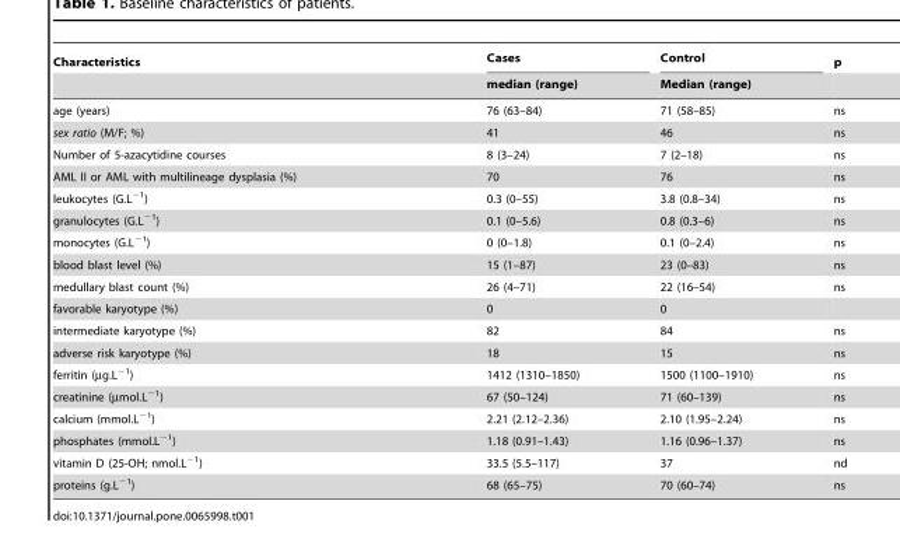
<table><thead><tr><td rowspan="2">Characteristics</td><td rowspan="2">Cases median (range)</td><td rowspan="2">Control Median (range)</td><td rowspan="2">p</td></tr><tr></tr></thead><tbody><tr><td>age (years)</td><td>76 (63–84)</td><td>71 (58–85)</td><td>ns</td></tr><tr><td>sex ratio (M/F; %)</td><td>41</td><td>46</td><td>ns</td></tr><tr><td>Number of 5-azacytidine courses</td><td>8 (3–24)</td><td>7 (2–18)</td><td>ns</td></tr><tr><td>AML II or AML with multilineage dysplasia (%)</td><td>70</td><td>76</td><td>ns</td></tr><tr><td>leukocytes (G.L<sup>−1</sup>)</td><td>0.3 (0–55)</td><td>3.8 (0.8–34)</td><td>ns</td></tr><tr><td>granulocytes (G.L<sup>−1</sup>)</td><td>0.1 (0–5.6)</td><td>0.8 (0.3–6)</td><td>ns</td></tr><tr><td>monocytes (G.L<sup>−1</sup>)</td><td>0 (0–1.8)</td><td>0.1 (0–2.4)</td><td>ns</td></tr><tr><td>blood blast level (%)</td><td>15 (1–87)</td><td>23 (0–83)</td><td>ns</td></tr><tr><td>medullary blast count (%)</td><td>26 (4–71)</td><td>22 (16–54)</td><td>ns</td></tr><tr><td>favorable karyotype (%)</td><td>0</td><td>0</td><td></td></tr><tr><td>intermediate karyotype (%)</td><td>82</td><td>84</td><td>ns</td></tr><tr><td>adverse risk karyotype (%)</td><td>18</td><td>15</td><td>ns</td></tr><tr><td>ferritin (µg.L<sup>−1</sup>)</td><td>1412 (1310–1850)</td><td>1500 (1100–1910)</td><td>ns</td></tr><tr><td>creatinine (µmol.L<sup>−1</sup>)</td><td>67 (50–124)</td><td>71 (60–139)</td><td>ns</td></tr><tr><td>calcium (mmol.L<sup>−1</sup>)</td><td>2.21 (2.12–2.36)</td><td>2.10 (1.95–2.24)</td><td>ns</td></tr><tr><td>phosphates (mmol.L<sup>−1</sup>)</td><td>1.18 (0.91–1.43)</td><td>1.16 (0.96–1.37)</td><td>ns</td></tr><tr><td>vitamin D (25-OH; nmol.L<sup>−1</sup>)</td><td>33.5 (5.5–117)</td><td>37</td><td>nd</td></tr><tr><td>proteins (g.L<sup>−1</sup>)</td><td>68 (65–75)</td><td>70 (60–74)</td><td>ns</td></tr></tbody></table>